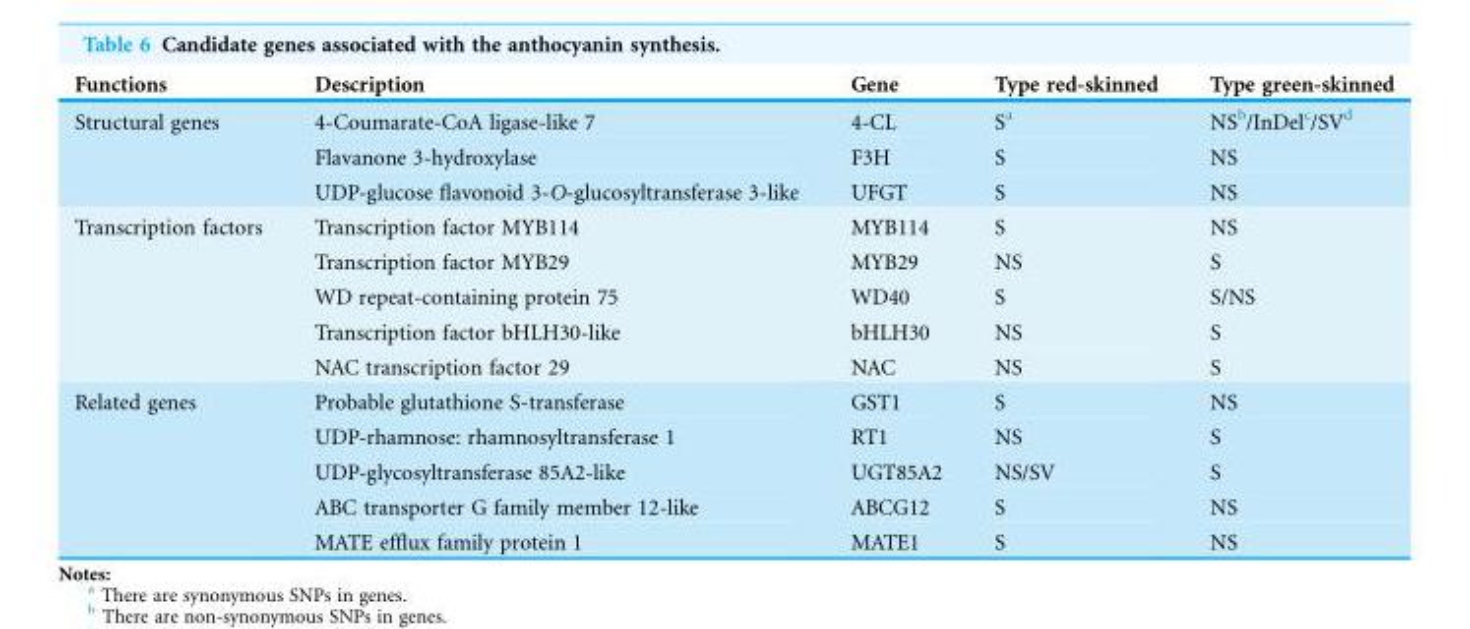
<table><thead><tr><td>Functions</td><td>Description</td><td>Gene</td><td>Type red-skinned</td><td>Type green-skinned</td></tr></thead><tbody><tr><td rowspan="3">Structural genes</td><td>4-Coumarate-CoA ligase-like 7</td><td>4-CL</td><td>S<sup>a</sup></td><td>NS<sup>b</sup>/InDel<sup>c</sup>/SV<sup>d</sup></td></tr><tr><td>Flavanone 3-hydroxylase</td><td>F3H</td><td>S</td><td>NS</td></tr><tr><td>UDP-glucose flavonoid 3-O-glucosyltransferase 3-like</td><td>UFGT</td><td>S</td><td>NS</td></tr><tr><td rowspan="5">Transcription factors</td><td>Transcription factor MYB114</td><td>MYB114</td><td>S</td><td>NS</td></tr><tr><td>Transcription factor MYB29</td><td>MYB29</td><td>NS</td><td>S</td></tr><tr><td>WD repeat-containing protein 75</td><td>WD40</td><td>S</td><td>S/NS</td></tr><tr><td>Transcription factor bHLH30-like</td><td>bHLH30</td><td>NS</td><td>S</td></tr><tr><td>NAC transcription factor 29</td><td>NAC</td><td>NS</td><td>S</td></tr><tr><td rowspan="5">Related genes</td><td>Probable glutathione S-transferase</td><td>GST1</td><td>S</td><td>NS</td></tr><tr><td>UDP-rhamnose: rhamnosyltransferase 1</td><td>RT1</td><td>NS</td><td>S</td></tr><tr><td>UDP-glycosyltransferase 85A2-like</td><td>UGT85A2</td><td>NS/SV</td><td>S</td></tr><tr><td>ABC transporter G family member 12-like</td><td>ABCG12</td><td>S</td><td>NS</td></tr><tr><td>MATE efflux family protein 1</td><td>MATE1</td><td>S</td><td>NS</td></tr></tbody></table>